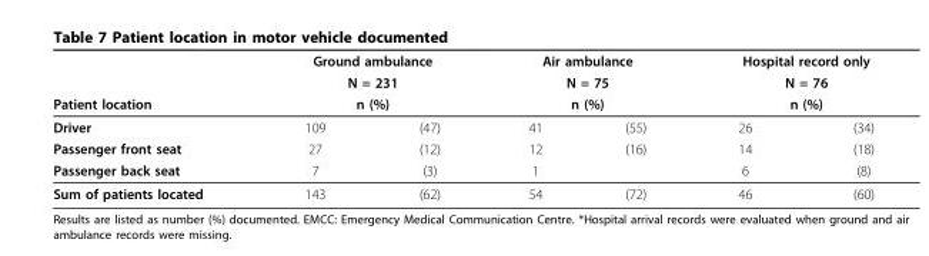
<table><thead><tr><td rowspan="4">Patient location Driver</td><td rowspan="3" colspan="2">Ground ambulance N = 231 n (%)</td><td rowspan="3" colspan="2">Air ambulance N = 75 n (%)</td><td rowspan="3" colspan="2">Hospital record only N = 76 n (%)</td></tr><tr></tr><tr></tr><tr><td>109</td><td>(47)</td><td>41</td><td>(55)</td><td>26</td><td>(34)</td></tr></thead><tbody><tr><td>Passenger front seat</td><td>27</td><td>(12)</td><td>12</td><td>(16)</td><td>14</td><td>(18)</td></tr><tr><td>Passenger back seat</td><td>7</td><td>(3)</td><td>1</td><td></td><td>6</td><td>(8)</td></tr><tr><td>Sum of patients located</td><td>143</td><td>(62)</td><td>54</td><td>(72)</td><td>46</td><td>(60)</td></tr></tbody></table>